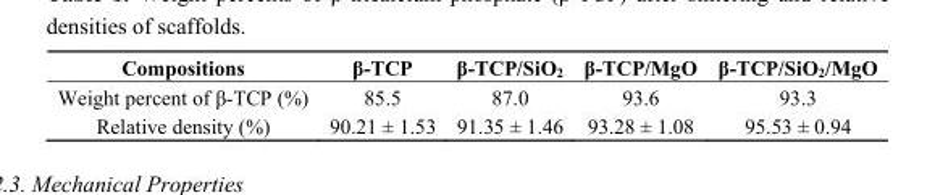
<table><thead><tr><td>Compositions</td><td>β-TCP</td><td>β-TCP/SiO<sub>2</sub></td><td>β-TCP/MgO</td><td>β-TCP/SiO<sub>2</sub>/MgO</td></tr></thead><tbody><tr><td>Weight percent of β-TCP (%)</td><td>85.5</td><td>87.0</td><td>93.6</td><td>93.3</td></tr><tr><td>Relative density (%)</td><td>90.21 ± 1.53</td><td>91.35 ± 1.46</td><td>93.28 ± 1.08</td><td>95.53 ± 0.94</td></tr></tbody></table>